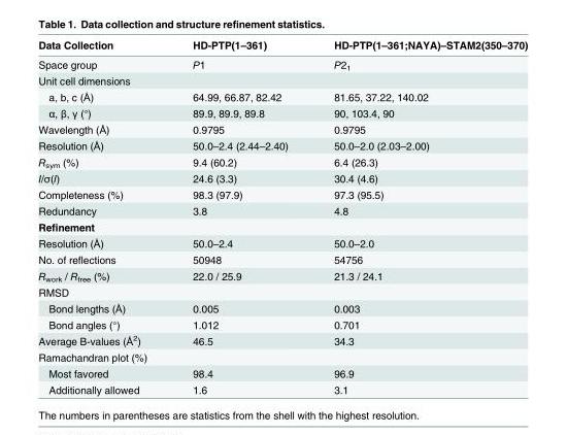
<table><thead><tr><td>Data Collection</td><td>HD-PTP(1–361)</td><td>HD-PTP(1–361;NAYA)–STAM2(350–370)</td></tr></thead><tbody><tr><td>Space group</td><td>P1</td><td>P2<sub>1</sub></td></tr><tr><td colspan="3">Unit cell dimensions</td></tr><tr><td>a, b, c (Å)</td><td>64.99, 66.87, 82.42</td><td>81.65, 37.22, 140.02</td></tr><tr><td>α, β, γ (°)</td><td>89.9, 89.9, 89.8</td><td>90, 103.4, 90</td></tr><tr><td>Wavelength (Å)</td><td>0.9795</td><td>0.9795</td></tr><tr><td>Resolution (Å)</td><td>50.0–2.4 (2.44–2.40)</td><td>50.0–2.0 (2.03–2.00)</td></tr><tr><td>R<sub>sym</sub> (%)</td><td>9.4 (60.2)</td><td>6.4 (26.3)</td></tr><tr><td>I/σ(I)</td><td>24.6 (3.3)</td><td>30.4 (4.6)</td></tr><tr><td>Completeness (%)</td><td>98.3 (97.9)</td><td>97.3 (95.5)</td></tr><tr><td>Redundancy</td><td>3.8</td><td>4.8</td></tr><tr><td colspan="3">Refinement</td></tr><tr><td>Resolution (Å)</td><td>50.0–2.4</td><td>50.0–2.0</td></tr><tr><td>No. of reflections</td><td>50948</td><td>54756</td></tr><tr><td>R<sub>work</sub> / R<sub>free</sub> (%)</td><td>22.0 / 25.9</td><td>21.3 / 24.1</td></tr><tr><td colspan="3">RMSD</td></tr><tr><td>Bond lengths (Å)</td><td>0.005</td><td>0.003</td></tr><tr><td>Bond angles (°)</td><td>1.012</td><td>0.701</td></tr><tr><td>Average B-values (Å<sup>2</sup>)</td><td>46.5</td><td>34.3</td></tr><tr><td colspan="3">Ramachandran plot (%)</td></tr><tr><td>Most favored</td><td>98.4</td><td>96.9</td></tr><tr><td>Additionally allowed</td><td>1.6</td><td>3.1</td></tr></tbody></table>